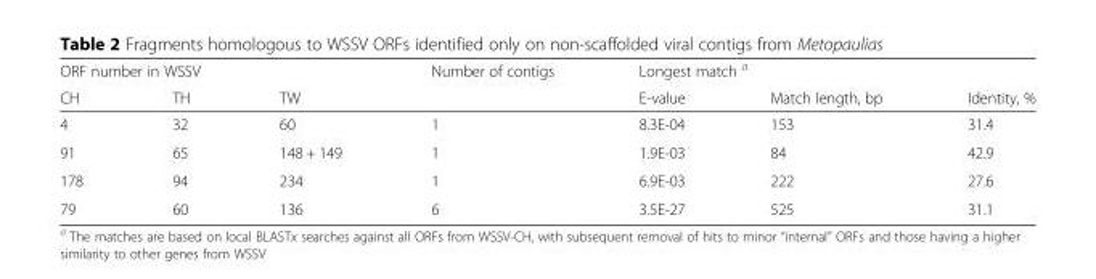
<table><thead><tr><td colspan="3">ORF number in WSSV</td><td rowspan="2">Number of contigs</td><td colspan="3">Longest match <sup>a</sup></td></tr><tr><td>CH</td><td>TH</td><td>TW</td><td>E-value</td><td>Match length, bp</td><td>Identity, %</td></tr></thead><tbody><tr><td>4</td><td>32</td><td>60</td><td>1</td><td>8.3E-04</td><td>153</td><td>31.4</td></tr><tr><td>91</td><td>65</td><td>148 + 149</td><td>1</td><td>1.9E-03</td><td>84</td><td>42.9</td></tr><tr><td>178</td><td>94</td><td>234</td><td>1</td><td>6.9E-03</td><td>222</td><td>27.6</td></tr><tr><td>79</td><td>60</td><td>136</td><td>6</td><td>3.5E-27</td><td>525</td><td>31.1</td></tr></tbody></table>